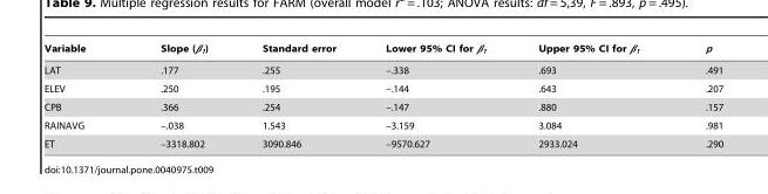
<table><thead><tr><td>Variable</td><td>Slope (β<sub>1</sub>)</td><td>Standard error</td><td>Lower 95% CI for β<sub>1</sub></td><td>Upper 95% CI for β<sub>1</sub></td><td>p</td></tr></thead><tbody><tr><td>LAT</td><td>.177</td><td>.255</td><td>–.338</td><td>.693</td><td>.491</td></tr><tr><td>ELEV</td><td>.250</td><td>.195</td><td>–.144</td><td>.643</td><td>.207</td></tr><tr><td>CPB</td><td>.366</td><td>.254</td><td>–.147</td><td>.880</td><td>.157</td></tr><tr><td>RAINAVG</td><td>–.038</td><td>1.543</td><td>–3.159</td><td>3.084</td><td>.981</td></tr><tr><td>ET</td><td>–3318.802</td><td>3090.846</td><td>–9570.627</td><td>2933.024</td><td>.290</td></tr></tbody></table>